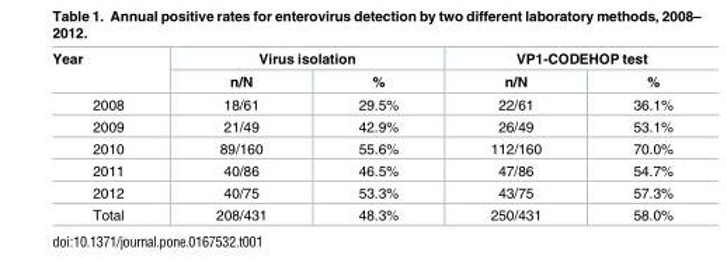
<table><thead><tr><td rowspan="2">Year</td><td colspan="2">Virus isolation</td><td colspan="2">VP1-CODEHOP test</td></tr><tr><td>n/N</td><td>%</td><td>n/N</td><td>%</td></tr></thead><tbody><tr><td>2008</td><td>18/61</td><td>29.5%</td><td>22/61</td><td>36.1%</td></tr><tr><td>2009</td><td>21/49</td><td>42.9%</td><td>26/49</td><td>53.1%</td></tr><tr><td>2010</td><td>89/160</td><td>55.6%</td><td>112/160</td><td>70.0%</td></tr><tr><td>2011</td><td>40/86</td><td>46.5%</td><td>47/86</td><td>54.7%</td></tr><tr><td>2012</td><td>40/75</td><td>53.3%</td><td>43/75</td><td>57.3%</td></tr><tr><td>Total</td><td>208/431</td><td>48.3%</td><td>250/431</td><td>58.0%</td></tr></tbody></table>